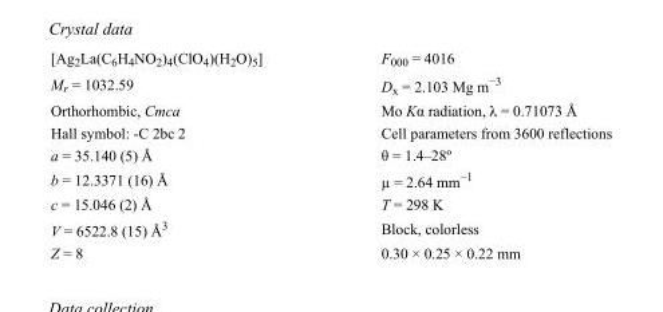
<table><tbody><tr><td>[Ag<sub>2</sub>La(C<sub>6</sub>H<sub>4</sub>NO<sub>2</sub>)<sub>4</sub>(ClO<sub>4</sub>)(H<sub>2</sub>O)<sub>5</sub>]</td><td>F000 = 4016</td></tr><tr><td>M<sub>r</sub> = 1032.59</td><td>D<sub>x</sub> = 2.103 Mg m<sup>−3</sup></td></tr><tr><td>Orthorhombic, Cmca</td><td>Mo Kα radiation, λ = 0.71073 Å</td></tr><tr><td>Hall symbol: -C 2bc 2</td><td>Cell parameters from 3600 reflections</td></tr><tr><td>a = 35.140 (5) Å</td><td>θ = 1.4–28º</td></tr><tr><td>b = 12.3371 (16) Å</td><td>µ = 2.64 mm<sup>−1</sup></td></tr><tr><td>c = 15.046 (2) Å</td><td>T = 298 K</td></tr><tr><td>V = 6522.8 (15) Å<sup>3</sup></td><td>Block, colorless</td></tr><tr><td>Z = 8</td><td>0.30 × 0.25 × 0.22 mm</td></tr></tbody></table>